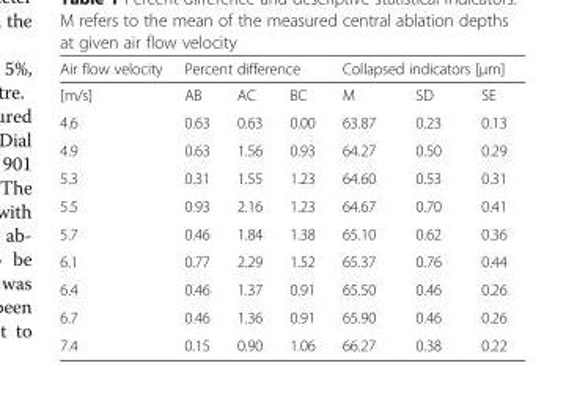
<table><thead><tr><td rowspan="2">Air flow velocity [m/s]</td><td colspan="3">Percent difference</td><td colspan="3">Collapsed indicators [μm]</td></tr><tr><td>AB</td><td>AC</td><td>BC</td><td>M</td><td>SD</td><td>SE</td></tr></thead><tbody><tr><td>4.6</td><td>0.63</td><td>0.63</td><td>0.00</td><td>63.87</td><td>0.23</td><td>0.13</td></tr><tr><td>4.9</td><td>0.63</td><td>1.56</td><td>0.93</td><td>64.27</td><td>0.50</td><td>0.29</td></tr><tr><td>5.3</td><td>0.31</td><td>1.55</td><td>1.23</td><td>64.60</td><td>0.53</td><td>0.31</td></tr><tr><td>5.5</td><td>0.93</td><td>2.16</td><td>1.23</td><td>64.67</td><td>0.70</td><td>0.41</td></tr><tr><td>5.7</td><td>0.46</td><td>1.84</td><td>1.38</td><td>65.10</td><td>0.62</td><td>0.36</td></tr><tr><td>6.1</td><td>0.77</td><td>2.29</td><td>1.52</td><td>65.37</td><td>0.76</td><td>0.44</td></tr><tr><td>6.4</td><td>0.46</td><td>1.37</td><td>0.91</td><td>65.50</td><td>0.46</td><td>0.26</td></tr><tr><td>6.7</td><td>0.46</td><td>1.36</td><td>0.91</td><td>65.90</td><td>0.46</td><td>0.26</td></tr><tr><td>7.4</td><td>0.15</td><td>0.90</td><td>1.06</td><td>66.27</td><td>0.38</td><td>0.22</td></tr></tbody></table>